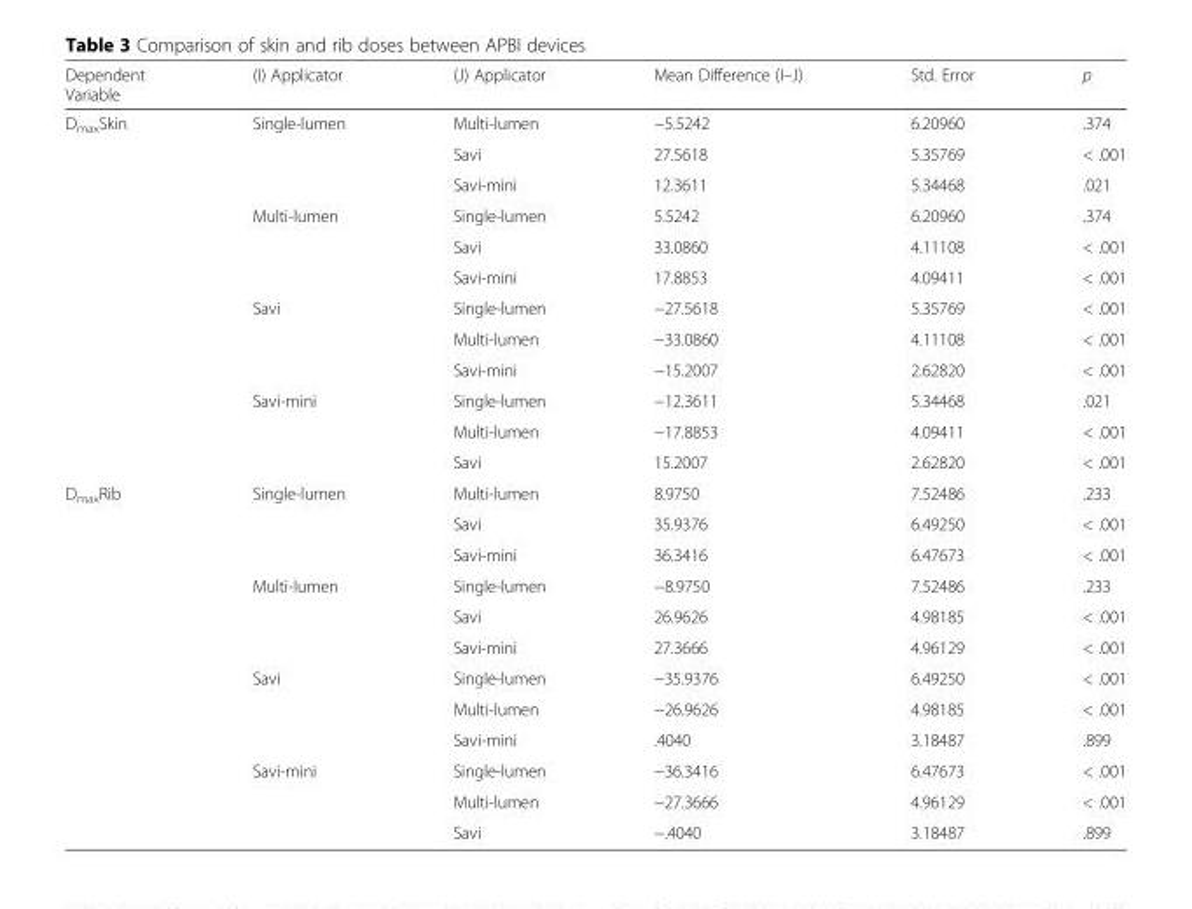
<table><thead><tr><td>Dependent Variable</td><td>(I) Applicator</td><td>(J) Applicator</td><td>Mean Difference (I–J)</td><td>Std. Error</td><td>p</td></tr></thead><tbody><tr><td rowspan="12">D<sub>max</sub>Skin</td><td rowspan="3">Single-lumen</td><td>Multi-lumen</td><td>−5.5242</td><td>6.20960</td><td>.374</td></tr><tr><td>Savi</td><td>27.5618</td><td>5.35769</td><td>&lt; .001</td></tr><tr><td>Savi-mini</td><td>12.3611</td><td>5.34468</td><td>.021</td></tr><tr><td rowspan="3">Multi-lumen</td><td>Single-lumen</td><td>5.5242</td><td>6.20960</td><td>.374</td></tr><tr><td>Savi</td><td>33.0860</td><td>4.11108</td><td>&lt; .001</td></tr><tr><td>Savi-mini</td><td>17.8853</td><td>4.09411</td><td>&lt; .001</td></tr><tr><td rowspan="3">Savi</td><td>Single-lumen</td><td>−27.5618</td><td>5.35769</td><td>&lt; .001</td></tr><tr><td>Multi-lumen</td><td>−33.0860</td><td>4.11108</td><td>&lt; .001</td></tr><tr><td>Savi-mini</td><td>−15.2007</td><td>2.62820</td><td>&lt; .001</td></tr><tr><td rowspan="3">Savi-mini</td><td>Single-lumen</td><td>−12.3611</td><td>5.34468</td><td>.021</td></tr><tr><td>Multi-lumen</td><td>−17.8853</td><td>4.09411</td><td>&lt; .001</td></tr><tr><td>Savi</td><td>15.2007</td><td>2.62820</td><td>&lt; .001</td></tr><tr><td rowspan="12">D<sub>max</sub>Rib</td><td rowspan="3">Single-lumen</td><td>Multi-lumen</td><td>8.9750</td><td>7.52486</td><td>.233</td></tr><tr><td>Savi</td><td>35.9376</td><td>6.49250</td><td>&lt; .001</td></tr><tr><td>Savi-mini</td><td>36.3416</td><td>6.47673</td><td>&lt; .001</td></tr><tr><td rowspan="3">Multi-lumen</td><td>Single-lumen</td><td>−8.9750</td><td>7.52486</td><td>.233</td></tr><tr><td>Savi</td><td>26.9626</td><td>4.98185</td><td>&lt; .001</td></tr><tr><td>Savi-mini</td><td>27.3666</td><td>4.96129</td><td>&lt; .001</td></tr><tr><td rowspan="3">Savi</td><td>Single-lumen</td><td>−35.9376</td><td>6.49250</td><td>&lt; .001</td></tr><tr><td>Multi-lumen</td><td>−26.9626</td><td>4.98185</td><td>&lt; .001</td></tr><tr><td>Savi-mini</td><td>.4040</td><td>3.18487</td><td>.899</td></tr><tr><td rowspan="3">Savi-mini</td><td>Single-lumen</td><td>−36.3416</td><td>6.47673</td><td>&lt; .001</td></tr><tr><td>Multi-lumen</td><td>−27.3666</td><td>4.96129</td><td>&lt; .001</td></tr><tr><td>Savi</td><td>−.4040</td><td>3.18487</td><td>.899</td></tr></tbody></table>